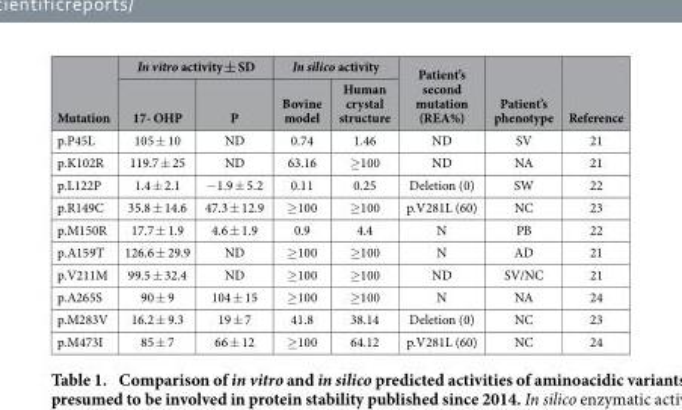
<table><thead><tr><td rowspan="2">Mutation</td><td colspan="2">In vitro activity ± SD</td><td colspan="2">In silico activity</td><td rowspan="2">Patient’s second mutation (REA%)</td><td rowspan="2">Patient’s phenotype</td><td rowspan="2">Reference</td></tr><tr><td>17- OHP</td><td>P</td><td>Bovine model</td><td>Human crystal structure</td></tr></thead><tbody><tr><td>p.P45L</td><td>105 ± 10</td><td>ND</td><td>0.74</td><td>1.46</td><td>ND</td><td>SV</td><td>21</td></tr><tr><td>p.K102R</td><td>119.7 ± 25</td><td>ND</td><td>63.16</td><td>≥ 100</td><td>ND</td><td>NA</td><td>21</td></tr><tr><td>p.L122P</td><td>1.4 ± 2.1</td><td>− 1.9 ± 5.2</td><td>0.11</td><td>0.25</td><td>Deletion (0)</td><td>SW</td><td>22</td></tr><tr><td>p.R149C</td><td>35.8 ± 14.6</td><td>47.3 ± 12.9</td><td>≥ 100</td><td>≥ 100</td><td>p.V281L (60)</td><td>NC</td><td>23</td></tr><tr><td>p.M150R</td><td>17.7 ± 1.9</td><td>4.6 ± 1.9</td><td>0.9</td><td>4.4</td><td>N</td><td>PB</td><td>22</td></tr><tr><td>p.A159T</td><td>126.6 ± 29.9</td><td>ND</td><td>≥ 100</td><td>≥ 100</td><td>N</td><td>AD</td><td>21</td></tr><tr><td>p.V211M</td><td>99.5 ± 32.4</td><td>ND</td><td>≥ 100</td><td>≥ 100</td><td>ND</td><td>SV/NC</td><td>21</td></tr><tr><td>p.A265S</td><td>90 ± 9</td><td>104 ± 15</td><td>≥ 100</td><td>≥ 100</td><td>N</td><td>NA</td><td>24</td></tr><tr><td>p.M283V</td><td>16.2 ± 9.3</td><td>19 ± 7</td><td>41.8</td><td>38.14</td><td>Deletion (0)</td><td>NC</td><td>23</td></tr><tr><td>p.M473I</td><td>85 ± 7</td><td>66 ± 12</td><td>≥ 100</td><td>64.12</td><td>p.V281L (60)</td><td>NC</td><td>24</td></tr></tbody></table>